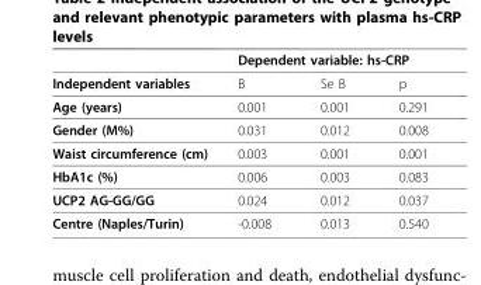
<table><thead><tr><td rowspan="2">Independent variables</td><td colspan="3">Dependent variable: hs-CRP</td></tr><tr><td>B</td><td>Se B</td><td>p</td></tr></thead><tbody><tr><td>Age (years)</td><td>0.001</td><td>0.001</td><td>0.291</td></tr><tr><td>Gender (M%)</td><td>0.031</td><td>0.012</td><td>0.008</td></tr><tr><td>Waist circumference (cm)</td><td>0.003</td><td>0.001</td><td>0.001</td></tr><tr><td>HbA1c (%)</td><td>0.006</td><td>0.003</td><td>0.083</td></tr><tr><td>UCP2 AG-GG/GG</td><td>0.024</td><td>0.012</td><td>0.037</td></tr><tr><td>Centre (Naples/Turin)</td><td>-0.008</td><td>0.013</td><td>0.540</td></tr></tbody></table>